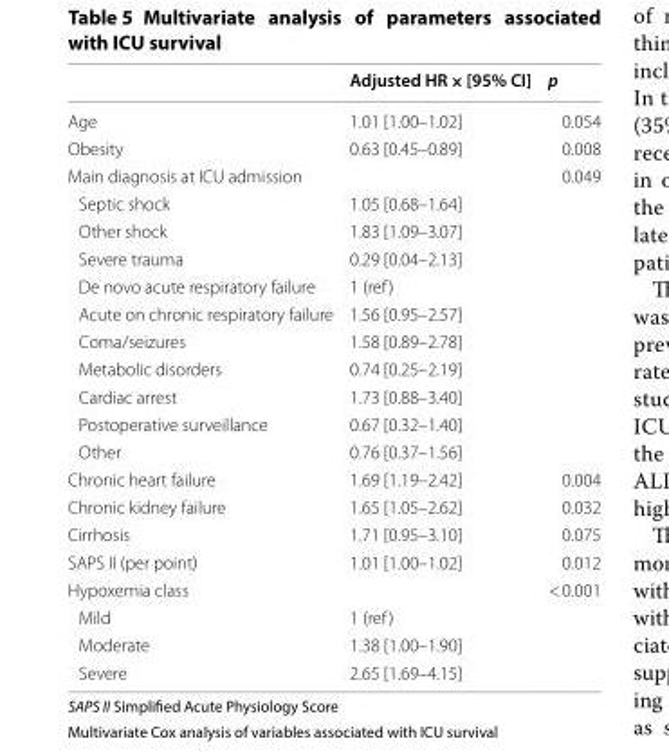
<table><thead><tr><td></td><td>Adjusted HR × [95% CI]</td><td>p</td></tr></thead><tbody><tr><td>Age</td><td>1.01 [1.00–1.02]</td><td>0.054</td></tr><tr><td>Obesity</td><td>0.63 [0.45–0.89]</td><td>0.008</td></tr><tr><td>Main diagnosis at ICU admission</td><td></td><td>0.049</td></tr><tr><td>Septic shock</td><td>1.05 [0.68–1.64]</td><td></td></tr><tr><td>Other shock</td><td>1.83 [1.09–3.07]</td><td></td></tr><tr><td>Severe trauma</td><td>0.29 [0.04–2.13]</td><td></td></tr><tr><td>De novo acute respiratory failure</td><td>1 (ref)</td><td></td></tr><tr><td>Acute on chronic respiratory failure</td><td>1.56 [0.95–2.57]</td><td></td></tr><tr><td>Coma/seizures</td><td>1.58 [0.89–2.78]</td><td></td></tr><tr><td>Metabolic disorders</td><td>0.74 [0.25–2.19]</td><td></td></tr><tr><td>Cardiac arrest</td><td>1.73 [0.88–3.40]</td><td></td></tr><tr><td>Postoperative surveillance</td><td>0.67 [0.32–1.40]</td><td></td></tr><tr><td>Other</td><td>0.76 [0.37–1.56]</td><td></td></tr><tr><td>Chronic heart failure</td><td>1.69 [1.19–2.42]</td><td>0.004</td></tr><tr><td>Chronic kidney failure</td><td>1.65 [1.05–2.62]</td><td>0.032</td></tr><tr><td>Cirrhosis</td><td>1.71 [0.95–3.10]</td><td>0.075</td></tr><tr><td>SAPS II (per point)</td><td>1.01 [1.00–1.02]</td><td>0.012</td></tr><tr><td>Hypoxemia class</td><td></td><td>&lt; 0.001</td></tr><tr><td>Mild</td><td>1 (ref)</td><td></td></tr><tr><td>Moderate</td><td>1.38 [1.00–1.90]</td><td></td></tr><tr><td>Severe</td><td>2.65 [1.69–4.15]</td><td></td></tr></tbody></table>